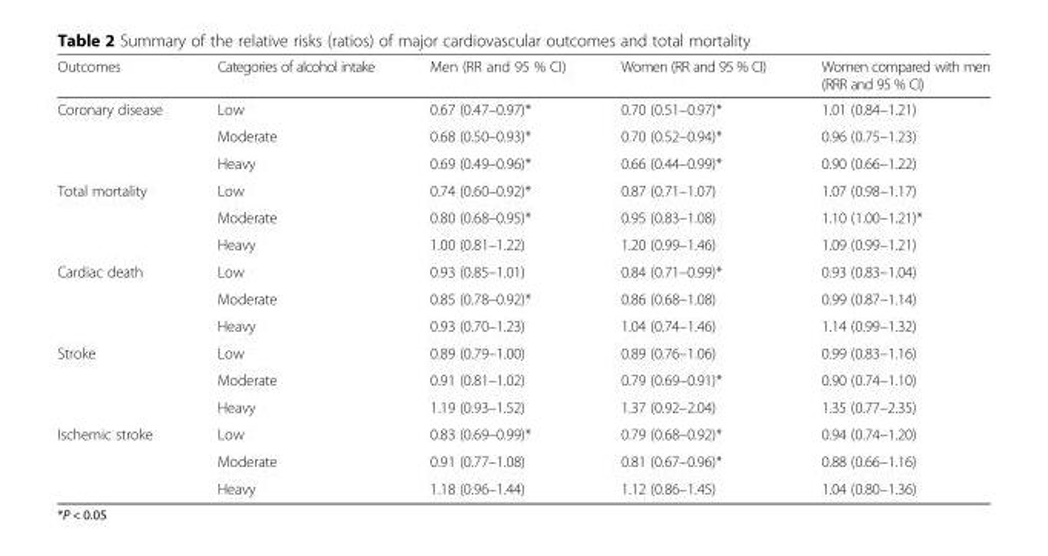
<table><thead><tr><td>Outcomes</td><td>Categories of alcohol intake</td><td>Men (RR and 95 % CI)</td><td>Women (RR and 95 % CI)</td><td>Women compared with men (RRR and 95 % CI)</td></tr></thead><tbody><tr><td rowspan="3">Coronary disease</td><td>Low</td><td>0.67 (0.47–0.97)*</td><td>0.70 (0.51–0.97)*</td><td>1.01 (0.84–1.21)</td></tr><tr><td>Moderate</td><td>0.68 (0.50–0.93)*</td><td>0.70 (0.52–0.94)*</td><td>0.96 (0.75–1.23)</td></tr><tr><td>Heavy</td><td>0.69 (0.49–0.96)*</td><td>0.66 (0.44–0.99)*</td><td>0.90 (0.66–1.22)</td></tr><tr><td rowspan="3">Total mortality</td><td>Low</td><td>0.74 (0.60–0.92)*</td><td>0.87 (0.71–1.07)</td><td>1.07 (0.98–1.17)</td></tr><tr><td>Moderate</td><td>0.80 (0.68–0.95)*</td><td>0.95 (0.83–1.08)</td><td>1.10 (1.00–1.21)*</td></tr><tr><td>Heavy</td><td>1.00 (0.81–1.22)</td><td>1.20 (0.99–1.46)</td><td>1.09 (0.99–1.21)</td></tr><tr><td rowspan="3">Cardiac death</td><td>Low</td><td>0.93 (0.85–1.01)</td><td>0.84 (0.71–0.99)*</td><td>0.93 (0.83–1.04)</td></tr><tr><td>Moderate</td><td>0.85 (0.78–0.92)*</td><td>0.86 (0.68–1.08)</td><td>0.99 (0.87–1.14)</td></tr><tr><td>Heavy</td><td>0.93 (0.70–1.23)</td><td>1.04 (0.74–1.46)</td><td>1.14 (0.99–1.32)</td></tr><tr><td rowspan="3">Stroke</td><td>Low</td><td>0.89 (0.79–1.00)</td><td>0.89 (0.76–1.06)</td><td>0.99 (0.83–1.16)</td></tr><tr><td>Moderate</td><td>0.91 (0.81–1.02)</td><td>0.79 (0.69–0.91)*</td><td>0.90 (0.74–1.10)</td></tr><tr><td>Heavy</td><td>1.19 (0.93–1.52)</td><td>1.37 (0.92–2.04)</td><td>1.35 (0.77–2.35)</td></tr><tr><td rowspan="3">Ischemic stroke</td><td>Low</td><td>0.83 (0.69–0.99)*</td><td>0.79 (0.68–0.92)*</td><td>0.94 (0.74–1.20)</td></tr><tr><td>Moderate</td><td>0.91 (0.77–1.08)</td><td>0.81 (0.67–0.96)*</td><td>0.88 (0.66–1.16)</td></tr><tr><td>Heavy</td><td>1.18 (0.96–1.44)</td><td>1.12 (0.86–1.45)</td><td>1.04 (0.80–1.36)</td></tr></tbody></table>